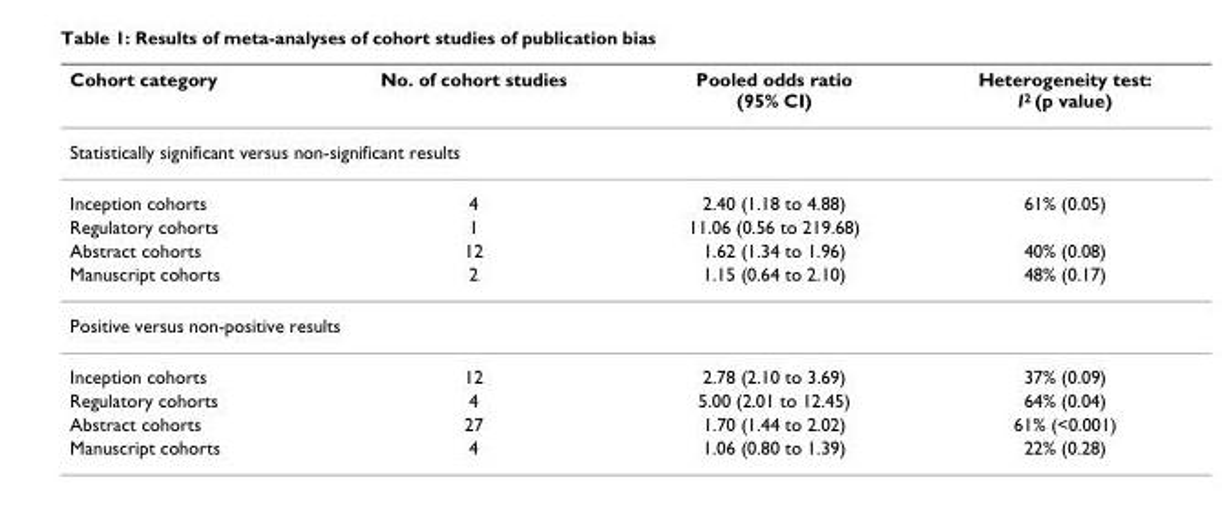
<table><thead><tr><td>Cohort category</td><td>No. of cohort studies</td><td>Pooled odds ratio (95% CI)</td><td>Heterogeneity test: I<sup>2</sup> (p value)</td></tr></thead><tbody><tr><td colspan="4">Statistically significant versus non-significant results</td></tr><tr><td>Inception cohorts</td><td>4</td><td>2.40 (1.18 to 4.88)</td><td>61% (0.05)</td></tr><tr><td>Regulatory cohorts</td><td>1</td><td>11.06 (0.56 to 219.68)</td><td></td></tr><tr><td>Abstract cohorts</td><td>12</td><td>1.62 (1.34 to 1.96)</td><td>40% (0.08)</td></tr><tr><td>Manuscript cohorts</td><td>2</td><td>1.15 (0.64 to 2.10)</td><td>48% (0.17)</td></tr><tr><td colspan="4">Positive versus non-positive results</td></tr><tr><td>Inception cohorts</td><td>12</td><td>2.78 (2.10 to 3.69)</td><td>37% (0.09)</td></tr><tr><td>Regulatory cohorts</td><td>4</td><td>5.00 (2.01 to 12.45)</td><td>64% (0.04)</td></tr><tr><td>Abstract cohorts</td><td>27</td><td>1.70 (1.44 to 2.02)</td><td>61% (&lt;0.001)</td></tr><tr><td>Manuscript cohorts</td><td>4</td><td>1.06 (0.80 to 1.39)</td><td>22% (0.28)</td></tr></tbody></table>